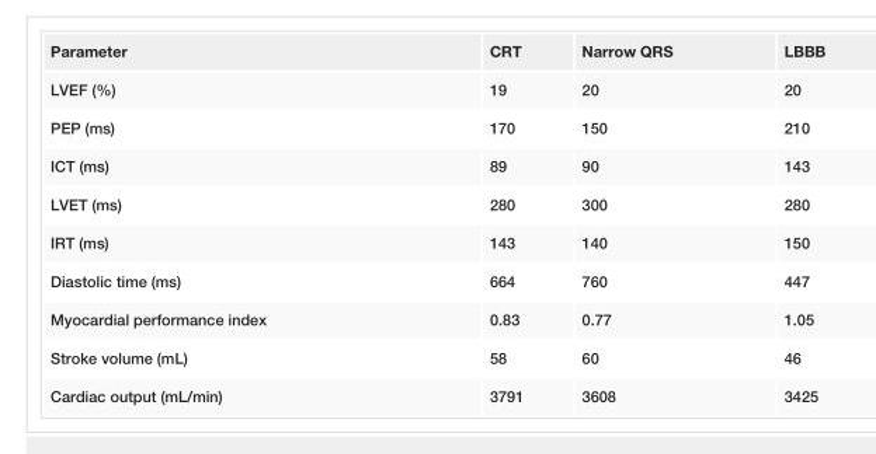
<table><tbody><tr><td>Parameter</td><td>CRT</td><td>Narrow QRS</td><td>LBBB</td></tr><tr><td>LVEF (%)</td><td>19</td><td>20</td><td>20</td></tr><tr><td>PEP (ms)</td><td>170</td><td>150</td><td>210</td></tr><tr><td>ICT (ms)</td><td>89</td><td>90</td><td>143</td></tr><tr><td>LVET (ms)</td><td>280</td><td>300</td><td>280</td></tr><tr><td>IRT (ms)</td><td>143</td><td>140</td><td>150</td></tr><tr><td>Diastolic time (ms)</td><td>664</td><td>760</td><td>447</td></tr><tr><td>Myocardial performance index</td><td>0.83</td><td>0.77</td><td>1.05</td></tr><tr><td>Stroke volume (mL)</td><td>58</td><td>60</td><td>46</td></tr><tr><td>Cardiac output (mL/min)</td><td>3791</td><td>3608</td><td>3425</td></tr></tbody></table>